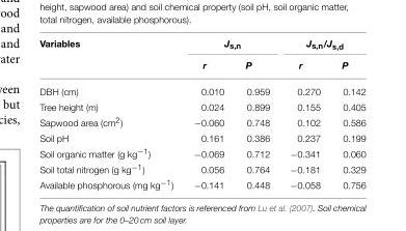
<table><thead><tr><td rowspan="2">Variables</td><td colspan="2">J<sub>s,n</sub></td><td colspan="2">J<sub>s,n</sub>/J<sub>s,d</sub></td></tr><tr><td>r</td><td>P</td><td>r</td><td>P</td></tr></thead><tbody><tr><td>DBH (cm)</td><td>0.010</td><td>0.959</td><td>0.270</td><td>0.142</td></tr><tr><td>Tree height (m)</td><td>0.024</td><td>0.899</td><td>0.155</td><td>0.405</td></tr><tr><td>Sapwood area (cm<sup>2</sup>)</td><td>−0.060</td><td>0.748</td><td>0.102</td><td>0.586</td></tr><tr><td>Soil pH</td><td>0.161</td><td>0.386</td><td>0.237</td><td>0.199</td></tr><tr><td>Soil organic matter (g kg<sup>−1</sup>)</td><td>−0.069</td><td>0.712</td><td>−0.341</td><td>0.060</td></tr><tr><td>Soil total nitrogen (g kg<sup>−1</sup>)</td><td>0.056</td><td>0.764</td><td>−0.181</td><td>0.329</td></tr><tr><td>Available phosphorous (mg kg<sup>−1</sup>)</td><td>−0.141</td><td>0.448</td><td>−0.058</td><td>0.756</td></tr></tbody></table>